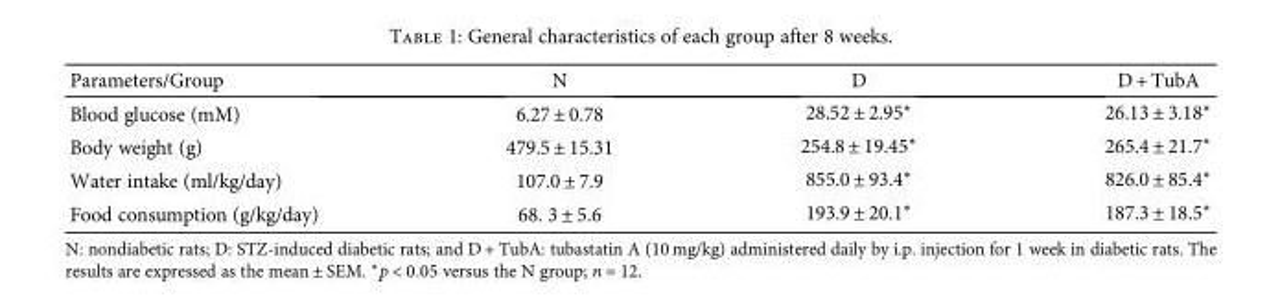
<table><thead><tr><td>Parameters/Group</td><td>N</td><td>D</td><td>D + TubA</td></tr></thead><tbody><tr><td>Blood glucose (mM)</td><td>6.27 ± 0.78</td><td>28.52 ± 2.95∗</td><td>26.13 ± 3.18∗</td></tr><tr><td>Body weight (g)</td><td>479.5 ± 15.31</td><td>254.8 ± 19.45∗</td><td>265.4 ± 21.7∗</td></tr><tr><td>Water intake (ml/kg/day)</td><td>107.0 ± 7.9</td><td>855.0 ± 93.4∗</td><td>826.0 ± 85.4∗</td></tr><tr><td>Food consumption (g/kg/day)</td><td>68. 3 ± 5.6</td><td>193.9 ± 20.1∗</td><td>187.3 ± 18.5∗</td></tr></tbody></table>